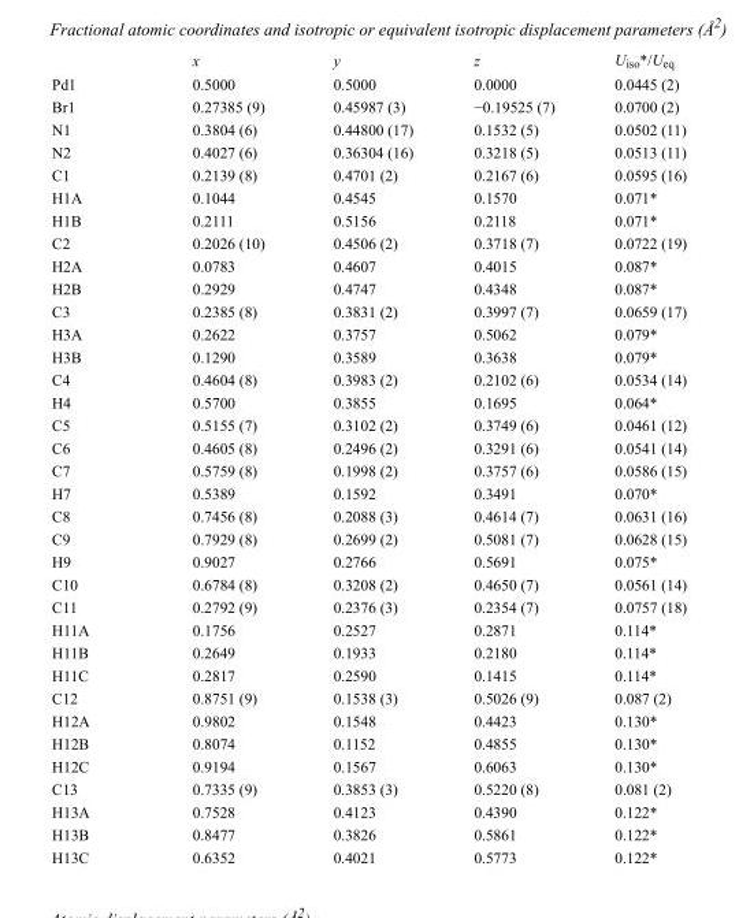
<table><thead><tr><td></td><td>x</td><td>y</td><td>z</td><td>U<sub>iso</sub>*/U<sub>eq</sub></td></tr></thead><tbody><tr><td>Pd1</td><td>0.5000</td><td>0.5000</td><td>0.0000</td><td>0.0445 (2)</td></tr><tr><td>Br1</td><td>0.27385 (9)</td><td>0.45987 (3)</td><td>−0.19525 (7)</td><td>0.0700 (2)</td></tr><tr><td>N1</td><td>0.3804 (6)</td><td>0.44800 (17)</td><td>0.1532 (5)</td><td>0.0502 (11)</td></tr><tr><td>N2</td><td>0.4027 (6)</td><td>0.36304 (16)</td><td>0.3218 (5)</td><td>0.0513 (11)</td></tr><tr><td>C1</td><td>0.2139 (8)</td><td>0.4701 (2)</td><td>0.2167 (6)</td><td>0.0595 (16)</td></tr><tr><td>H1A</td><td>0.1044</td><td>0.4545</td><td>0.1570</td><td>0.071*</td></tr><tr><td>H1B</td><td>0.2111</td><td>0.5156</td><td>0.2118</td><td>0.071*</td></tr><tr><td>C2</td><td>0.2026 (10)</td><td>0.4506 (2)</td><td>0.3718 (7)</td><td>0.0722 (19)</td></tr><tr><td>H2A</td><td>0.0783</td><td>0.4607</td><td>0.4015</td><td>0.087*</td></tr><tr><td>H2B</td><td>0.2929</td><td>0.4747</td><td>0.4348</td><td>0.087*</td></tr><tr><td>C3</td><td>0.2385 (8)</td><td>0.3831 (2)</td><td>0.3997 (7)</td><td>0.0659 (17)</td></tr><tr><td>H3A</td><td>0.2622</td><td>0.3757</td><td>0.5062</td><td>0.079*</td></tr><tr><td>H3B</td><td>0.1290</td><td>0.3589</td><td>0.3638</td><td>0.079*</td></tr><tr><td>C4</td><td>0.4604 (8)</td><td>0.3983 (2)</td><td>0.2102 (6)</td><td>0.0534 (14)</td></tr><tr><td>H4</td><td>0.5700</td><td>0.3855</td><td>0.1695</td><td>0.064*</td></tr><tr><td>C5</td><td>0.5155 (7)</td><td>0.3102 (2)</td><td>0.3749 (6)</td><td>0.0461 (12)</td></tr><tr><td>C6</td><td>0.4605 (8)</td><td>0.2496 (2)</td><td>0.3291 (6)</td><td>0.0541 (14)</td></tr><tr><td>C7</td><td>0.5759 (8)</td><td>0.1998 (2)</td><td>0.3757 (6)</td><td>0.0586 (15)</td></tr><tr><td>H7</td><td>0.5389</td><td>0.1592</td><td>0.3491</td><td>0.070*</td></tr><tr><td>C8</td><td>0.7456 (8)</td><td>0.2088 (3)</td><td>0.4614 (7)</td><td>0.0631 (16)</td></tr><tr><td>C9</td><td>0.7929 (8)</td><td>0.2699 (2)</td><td>0.5081 (7)</td><td>0.0628 (15)</td></tr><tr><td>H9</td><td>0.9027</td><td>0.2766</td><td>0.5691</td><td>0.075*</td></tr><tr><td>C10</td><td>0.6784 (8)</td><td>0.3208 (2)</td><td>0.4650 (7)</td><td>0.0561 (14)</td></tr><tr><td>C11</td><td>0.2792 (9)</td><td>0.2376 (3)</td><td>0.2354 (7)</td><td>0.0757 (18)</td></tr><tr><td>H11A</td><td>0.1756</td><td>0.2527</td><td>0.2871</td><td>0.114*</td></tr><tr><td>H11B</td><td>0.2649</td><td>0.1933</td><td>0.2180</td><td>0.114*</td></tr><tr><td>H11C</td><td>0.2817</td><td>0.2590</td><td>0.1415</td><td>0.114*</td></tr><tr><td>C12</td><td>0.8751 (9)</td><td>0.1538 (3)</td><td>0.5026 (9)</td><td>0.087 (2)</td></tr><tr><td>H12A</td><td>0.9802</td><td>0.1548</td><td>0.4423</td><td>0.130*</td></tr><tr><td>H12B</td><td>0.8074</td><td>0.1152</td><td>0.4855</td><td>0.130*</td></tr><tr><td>H12C</td><td>0.9194</td><td>0.1567</td><td>0.6063</td><td>0.130*</td></tr><tr><td>C13</td><td>0.7335 (9)</td><td>0.3853 (3)</td><td>0.5220 (8)</td><td>0.081 (2)</td></tr><tr><td>H13A</td><td>0.7528</td><td>0.4123</td><td>0.4390</td><td>0.122*</td></tr><tr><td>H13B</td><td>0.8477</td><td>0.3826</td><td>0.5861</td><td>0.122*</td></tr><tr><td>H13C</td><td>0.6352</td><td>0.4021</td><td>0.5773</td><td>0.122*</td></tr></tbody></table>